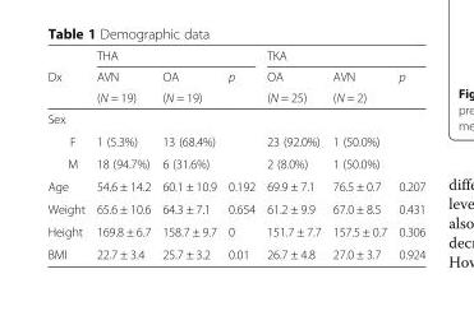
<table><thead><tr><td rowspan="3">Dx</td><td colspan="3">THA</td><td colspan="3">TKA</td></tr><tr><td rowspan="2">AVN (N = 19)</td><td rowspan="2">OA (N = 19)</td><td rowspan="2">p</td><td rowspan="2">OA (N = 25)</td><td rowspan="2">AVN (N = 2)</td><td rowspan="2">p</td></tr><tr></tr></thead><tbody><tr><td colspan="7">Sex</td></tr><tr><td>F</td><td>1 (5.3%)</td><td>13 (68.4%)</td><td></td><td>23 (92.0%)</td><td>1 (50.0%)</td><td></td></tr><tr><td>M</td><td>18 (94.7%)</td><td>6 (31.6%)</td><td></td><td>2 (8.0%)</td><td>1 (50.0%)</td><td></td></tr><tr><td>Age</td><td>54.6 ± 14.2</td><td>60.1 ± 10.9</td><td>0.192</td><td>69.9 ± 7.1</td><td>76.5 ± 0.7</td><td>0.207</td></tr><tr><td>Weight</td><td>65.6 ± 10.6</td><td>64.3 ± 7.1</td><td>0.654</td><td>61.2 ± 9.9</td><td>67.0 ± 8.5</td><td>0.431</td></tr><tr><td>Height</td><td>169.8 ± 6.7</td><td>158.7 ± 9.7</td><td>0</td><td>151.7 ± 7.7</td><td>157.5 ± 0.7</td><td>0.306</td></tr><tr><td>BMI</td><td>22.7 ± 3.4</td><td>25.7 ± 3.2</td><td>0.01</td><td>26.7 ± 4.8</td><td>27.0 ± 3.7</td><td>0.924</td></tr></tbody></table>